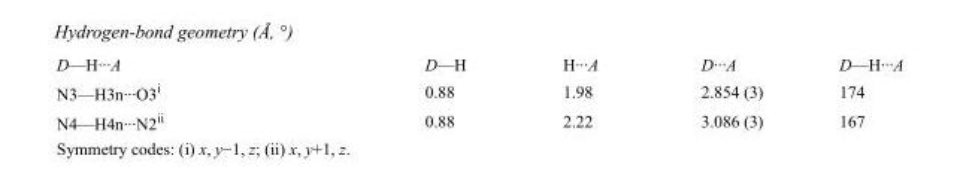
<table><tbody><tr><td>D—H···A</td><td>D—H</td><td>H···A</td><td>D···A</td><td>D—H···A</td></tr><tr><td>N3—H3n···O3<sup>i</sup></td><td>0.88</td><td>1.98</td><td>2.854 (3)</td><td>174</td></tr><tr><td>N4—H4n···N2<sup>ii</sup></td><td>0.88</td><td>2.22</td><td>3.086 (3)</td><td>167</td></tr></tbody></table>